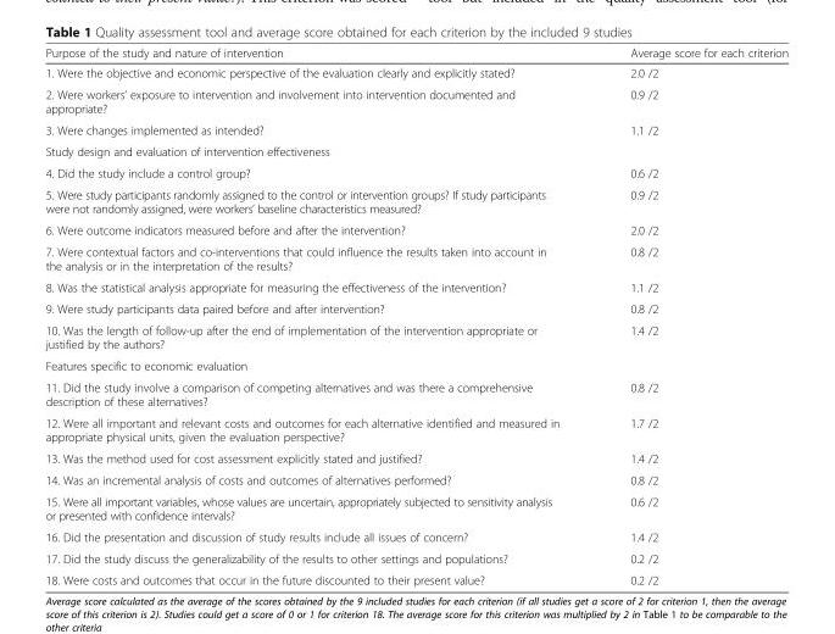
<table><thead><tr><td>Purpose of the study and nature of intervention</td><td>Average score for each criterion</td></tr></thead><tbody><tr><td>1. Were the objective and economic perspective of the evaluation clearly and explicitly stated?</td><td>2.0 /2</td></tr><tr><td>2. Were workers’ exposure to intervention and involvement into intervention documented and appropriate?</td><td>0.9 /2</td></tr><tr><td>3. Were changes implemented as intended?</td><td>1.1 /2</td></tr><tr><td colspan="2">Study design and evaluation of intervention effectiveness</td></tr><tr><td>4. Did the study include a control group?</td><td>0.6 /2</td></tr><tr><td>5. Were study participants randomly assigned to the control or intervention groups? If study participants were not randomly assigned, were workers’ baseline characteristics measured?</td><td>0.9 /2</td></tr><tr><td>6. Were outcome indicators measured before and after the intervention?</td><td>2.0 /2</td></tr><tr><td>7. Were contextual factors and co-interventions that could influence the results taken into account in the analysis or in the interpretation of the results?</td><td>0.8 /2</td></tr><tr><td>8. Was the statistical analysis appropriate for measuring the effectiveness of the intervention?</td><td>1.1 /2</td></tr><tr><td>9. Were study participants data paired before and after intervention?</td><td>0.8 /2</td></tr><tr><td>10. Was the length of follow-up after the end of implementation of the intervention appropriate or justified by the authors?</td><td>1.4 /2</td></tr><tr><td colspan="2">Features specific to economic evaluation</td></tr><tr><td>11. Did the study involve a comparison of competing alternatives and was there a comprehensive description of these alternatives?</td><td>0.8 /2</td></tr><tr><td>12. Were all important and relevant costs and outcomes for each alternative identified and measured in appropriate physical units, given the evaluation perspective?</td><td>1.7 /2</td></tr><tr><td>13. Was the method used for cost assessment explicitly stated and justified?</td><td>1.4 /2</td></tr><tr><td>14. Was an incremental analysis of costs and outcomes of alternatives performed?</td><td>0.8 /2</td></tr><tr><td>15. Were all important variables, whose values are uncertain, appropriately subjected to sensitivity analysis or presented with confidence intervals?</td><td>0.6 /2</td></tr><tr><td>16. Did the presentation and discussion of study results include all issues of concern?</td><td>1.4 /2</td></tr><tr><td>17. Did the study discuss the generalizability of the results to other settings and populations?</td><td>0.2 /2</td></tr><tr><td>18. Were costs and outcomes that occur in the future discounted to their present value?</td><td>0.2 /2</td></tr></tbody></table>